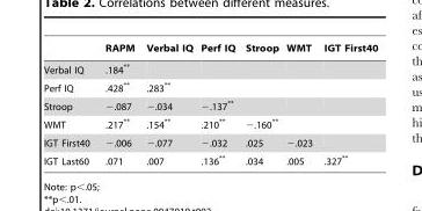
<table><thead><tr><td></td><td>RAPM</td><td>Verbal IQ</td><td>Perf IQ</td><td>Stroop</td><td>WMT</td><td>IGT First40</td></tr></thead><tbody><tr><td>Verbal IQ</td><td>.184**</td><td></td><td></td><td></td><td></td><td></td></tr><tr><td>Perf IQ</td><td>.428**</td><td>.283**</td><td></td><td></td><td></td><td></td></tr><tr><td>Stroop</td><td>−.087</td><td>−.034</td><td>−.137**</td><td></td><td></td><td></td></tr><tr><td>WMT</td><td>.217**</td><td>.154**</td><td>.210**</td><td>−.160**</td><td></td><td></td></tr><tr><td>IGT First40</td><td>−.006</td><td>−.077</td><td>−.032</td><td>.025</td><td>−.023</td><td></td></tr><tr><td>IGT Last60</td><td>.071</td><td>.007</td><td>.136**</td><td>.034</td><td>.005</td><td>.327**</td></tr></tbody></table>